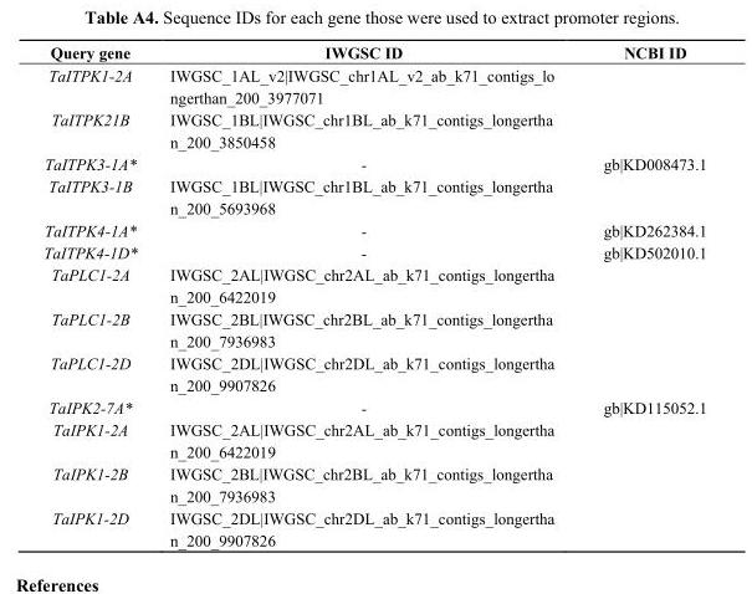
<table><thead><tr><td>Query gene</td><td>IWGSC ID</td><td>NCBI ID</td></tr></thead><tbody><tr><td>TaITPK1-2A</td><td>IWGSC_1AL_v2|IWGSC_chr1AL_v2_ab_k71_contigs_lo ngerthan_200_3977071</td><td></td></tr><tr><td>TaITPK21B</td><td>IWGSC_1BL|IWGSC_chr1BL_ab_k71_contigs_longertha n_200_3850458</td><td></td></tr><tr><td>TaITPK3-1A*</td><td>-</td><td>gb|KD008473.1</td></tr><tr><td>TaITPK3-1B</td><td>IWGSC_1BL|IWGSC_chr1BL_ab_k71_contigs_longertha n_200_5693968</td><td></td></tr><tr><td>TaITPK4-1A*</td><td>-</td><td>gb|KD262384.1</td></tr><tr><td>TaITPK4-1D*</td><td>-</td><td>gb|KD502010.1</td></tr><tr><td>TaPLC1-2A</td><td>IWGSC_2AL|IWGSC_chr2AL_ab_k71_contigs_longertha n_200_6422019</td><td></td></tr><tr><td>TaPLC1-2B</td><td>IWGSC_2BL|IWGSC_chr2BL_ab_k71_contigs_longertha n_200_7936983</td><td></td></tr><tr><td>TaPLC1-2D</td><td>IWGSC_2DL|IWGSC_chr2DL_ab_k71_contigs_longertha n_200_9907826</td><td></td></tr><tr><td>TaIPK2-7A*</td><td>-</td><td>gb|KD115052.1</td></tr><tr><td>TaIPK1-2A</td><td>IWGSC_2AL|IWGSC_chr2AL_ab_k71_contigs_longertha n_200_6422019</td><td></td></tr><tr><td>TaIPK1-2B</td><td>IWGSC_2BL|IWGSC_chr2BL_ab_k71_contigs_longertha n_200_7936983</td><td></td></tr><tr><td>TaIPK1-2D</td><td>IWGSC_2DL|IWGSC_chr2DL_ab_k71_contigs_longertha n_200_9907826</td><td></td></tr></tbody></table>